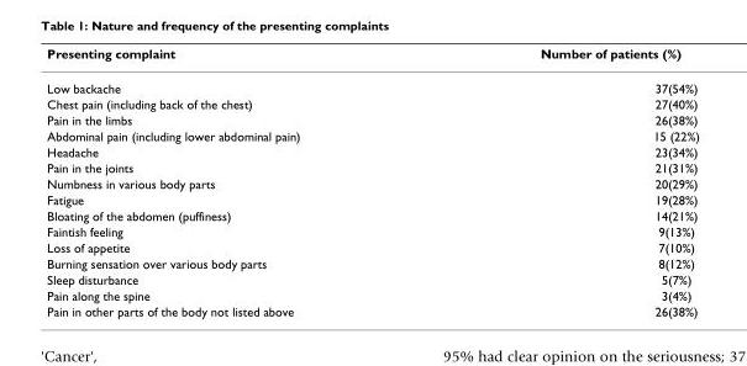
<table><thead><tr><td>Presenting complaint</td><td>Number of patients (%)</td></tr></thead><tbody><tr><td>Low backache</td><td>37(54%)</td></tr><tr><td>Chest pain (including back of the chest)</td><td>27(40%)</td></tr><tr><td>Pain in the limbs</td><td>26(38%)</td></tr><tr><td>Abdominal pain (including lower abdominal pain)</td><td>15 (22%)</td></tr><tr><td>Headache</td><td>23(34%)</td></tr><tr><td>Pain in the joints</td><td>21(31%)</td></tr><tr><td>Numbness in various body parts</td><td>20(29%)</td></tr><tr><td>Fatigue</td><td>19(28%)</td></tr><tr><td>Bloating of the abdomen (puffiness)</td><td>14(21%)</td></tr><tr><td>Faintish feeling</td><td>9(13%)</td></tr><tr><td>Loss of appetite</td><td>7(10%)</td></tr><tr><td>Burning sensation over various body parts</td><td>8(12%)</td></tr><tr><td>Sleep disturbance</td><td>5(7%)</td></tr><tr><td>Pain along the spine</td><td>3(4%)</td></tr><tr><td>Pain in other parts of the body not listed above</td><td>26(38%)</td></tr></tbody></table>